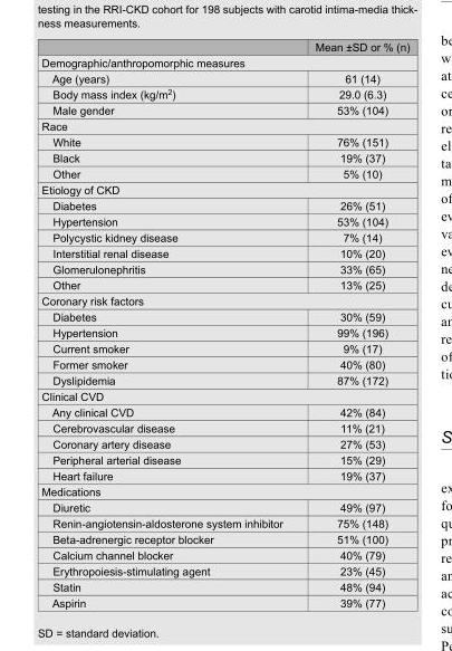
<table><thead><tr><td></td><td>Mean ±SD or % (n)</td></tr></thead><tbody><tr><td colspan="2">Demographic/anthropomorphic measures</td></tr><tr><td>Age (years)</td><td>61 (14)</td></tr><tr><td>Body mass index (kg/m<sup>2</sup>)</td><td>29.0 (6.3)</td></tr><tr><td>Male gender</td><td>53% (104)</td></tr><tr><td colspan="2">Race</td></tr><tr><td>White</td><td>76% (151)</td></tr><tr><td>Black</td><td>19% (37)</td></tr><tr><td>Other</td><td>5% (10)</td></tr><tr><td colspan="2">Etiology of CKD</td></tr><tr><td>Diabetes</td><td>26% (51)</td></tr><tr><td>Hypertension</td><td>53% (104)</td></tr><tr><td>Polycystic kidney disease</td><td>7% (14)</td></tr><tr><td>Interstitial renal disease</td><td>10% (20)</td></tr><tr><td>Glomerulonephritis</td><td>33% (65)</td></tr><tr><td>Other</td><td>13% (25)</td></tr><tr><td colspan="2">Coronary risk factors</td></tr><tr><td>Diabetes</td><td>30% (59)</td></tr><tr><td>Hypertension</td><td>99% (196)</td></tr><tr><td>Current smoker</td><td>9% (17)</td></tr><tr><td>Former smoker</td><td>40% (80)</td></tr><tr><td>Dyslipidemia</td><td>87% (172)</td></tr><tr><td colspan="2">Clinical CVD</td></tr><tr><td>Any clinical CVD</td><td>42% (84)</td></tr><tr><td>Cerebrovascular disease</td><td>11% (21)</td></tr><tr><td>Coronary artery disease</td><td>27% (53)</td></tr><tr><td>Peripheral arterial disease</td><td>15% (29)</td></tr><tr><td>Heart failure</td><td>19% (37)</td></tr><tr><td colspan="2">Medications</td></tr><tr><td>Diuretic</td><td>49% (97)</td></tr><tr><td>Renin-angiotensin-aldosterone system inhibitor</td><td>75% (148)</td></tr><tr><td>Beta-adrenergic receptor blocker</td><td>51% (100)</td></tr><tr><td>Calcium channel blocker</td><td>40% (79)</td></tr><tr><td>Erythropoiesis-stimulating agent</td><td>23% (45)</td></tr><tr><td>Statin</td><td>48% (94)</td></tr><tr><td>Aspirin</td><td>39% (77)</td></tr></tbody></table>